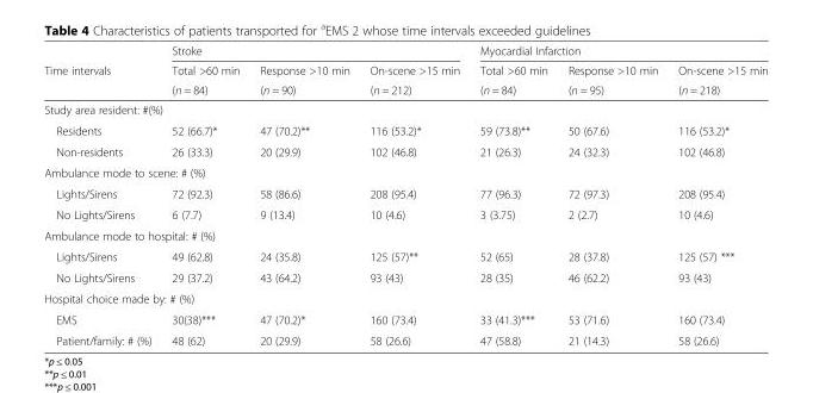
<table><thead><tr><td rowspan="3">Time intervals</td><td colspan="3">Stroke</td><td colspan="3">Myocardial Infarction</td></tr><tr><td rowspan="2">Total &gt;60 min (n = 84)</td><td rowspan="2">Response &gt;10 min (n = 90)</td><td rowspan="2">On-scene &gt;15 min (n = 212)</td><td rowspan="2">Total &gt;60 min (n = 84)</td><td rowspan="2">Response &gt;10 min (n = 95)</td><td rowspan="2">On-scene &gt;15 min (n = 218)</td></tr><tr></tr></thead><tbody><tr><td colspan="7">Study area resident: #(%)</td></tr><tr><td>Residents</td><td>52 (66.7)*</td><td>47 (70.2)**</td><td>116 (53.2)*</td><td>59 (73.8)**</td><td>50 (67.6)</td><td>116 (53.2)*</td></tr><tr><td>Non-residents</td><td>26 (33.3)</td><td>20 (29.9)</td><td>102 (46.8)</td><td>21 (26.3)</td><td>24 (32.3)</td><td>102 (46.8)</td></tr><tr><td colspan="7">Ambulance mode to scene: # (%)</td></tr><tr><td>Lights/Sirens</td><td>72 (92.3)</td><td>58 (86.6)</td><td>208 (95.4)</td><td>77 (96.3)</td><td>72 (97.3)</td><td>208 (95.4)</td></tr><tr><td>No Lights/Sirens</td><td>6 (7.7)</td><td>9 (13.4)</td><td>10 (4.6)</td><td>3 (3.75)</td><td>2 (2.7)</td><td>10 (4.6)</td></tr><tr><td colspan="7">Ambulance mode to hospital: # (%)</td></tr><tr><td>Lights/Sirens</td><td>49 (62.8)</td><td>24 (35.8)</td><td>125 (57)**</td><td>52 (65)</td><td>28 (37.8)</td><td>125 (57) ***</td></tr><tr><td>No Lights/Sirens</td><td>29 (37.2)</td><td>43 (64.2)</td><td>93 (43)</td><td>28 (35)</td><td>46 (62.2)</td><td>93 (43)</td></tr><tr><td colspan="7">Hospital choice made by: # (%)</td></tr><tr><td>EMS</td><td>30(38)***</td><td>47 (70.2)*</td><td>160 (73.4)</td><td>33 (41.3)***</td><td>53 (71.6)</td><td>160 (73.4)</td></tr><tr><td>Patient/family: # (%)</td><td>48 (62)</td><td>20 (29.9)</td><td>58 (26.6)</td><td>47 (58.8)</td><td>21 (14.3)</td><td>58 (26.6)</td></tr></tbody></table>